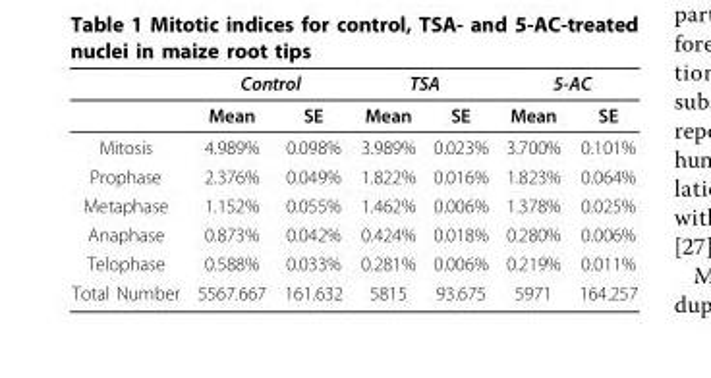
<table><thead><tr><td rowspan="2"></td><td colspan="2">Control</td><td colspan="2">TSA</td><td colspan="2">5-AC</td></tr><tr><td>Mean</td><td>SE</td><td>Mean</td><td>SE</td><td>Mean</td><td>SE</td></tr></thead><tbody><tr><td>Mitosis</td><td>4.989%</td><td>0.098%</td><td>3.989%</td><td>0.023%</td><td>3.700%</td><td>0.101%</td></tr><tr><td>Prophase</td><td>2.376%</td><td>0.049%</td><td>1.822%</td><td>0.016%</td><td>1.823%</td><td>0.064%</td></tr><tr><td>Metaphase</td><td>1.152%</td><td>0.055%</td><td>1.462%</td><td>0.006%</td><td>1.378%</td><td>0.025%</td></tr><tr><td>Anaphase</td><td>0.873%</td><td>0.042%</td><td>0.424%</td><td>0.018%</td><td>0.280%</td><td>0.006%</td></tr><tr><td>Telophase</td><td>0.588%</td><td>0.033%</td><td>0.281%</td><td>0.006%</td><td>0.219%</td><td>0.011%</td></tr><tr><td>Total Number</td><td>5567.667</td><td>161.632</td><td>5815</td><td>93.675</td><td>5971</td><td>164.257</td></tr></tbody></table>